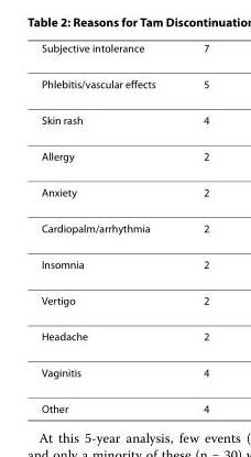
<table><thead><tr><td>Subjective intolerance</td><td>7</td></tr></thead><tbody><tr><td>Phlebitis/vascular effects</td><td>5</td></tr><tr><td>Skin rash</td><td>4</td></tr><tr><td>Allergy</td><td>2</td></tr><tr><td>Anxiety</td><td>2</td></tr><tr><td>Cardiopalm/arrhythmia</td><td>2</td></tr><tr><td>Insomnia</td><td>2</td></tr><tr><td>Vertigo</td><td>2</td></tr><tr><td>Headache</td><td>2</td></tr><tr><td>Vaginitis</td><td>4</td></tr><tr><td>Other</td><td>4</td></tr></tbody></table>